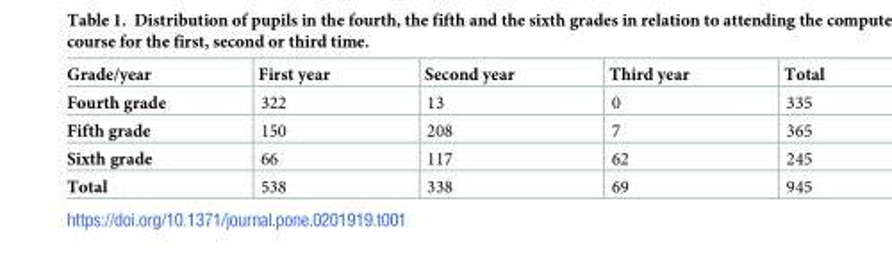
<table><thead><tr><td>Grade/year</td><td>First year</td><td>Second year</td><td>Third year</td><td>Total</td></tr></thead><tbody><tr><td>Fourth grade</td><td>322</td><td>13</td><td>0</td><td>335</td></tr><tr><td>Fifth grade</td><td>150</td><td>208</td><td>7</td><td>365</td></tr><tr><td>Sixth grade</td><td>66</td><td>117</td><td>62</td><td>245</td></tr><tr><td>Total</td><td>538</td><td>338</td><td>69</td><td>945</td></tr></tbody></table>